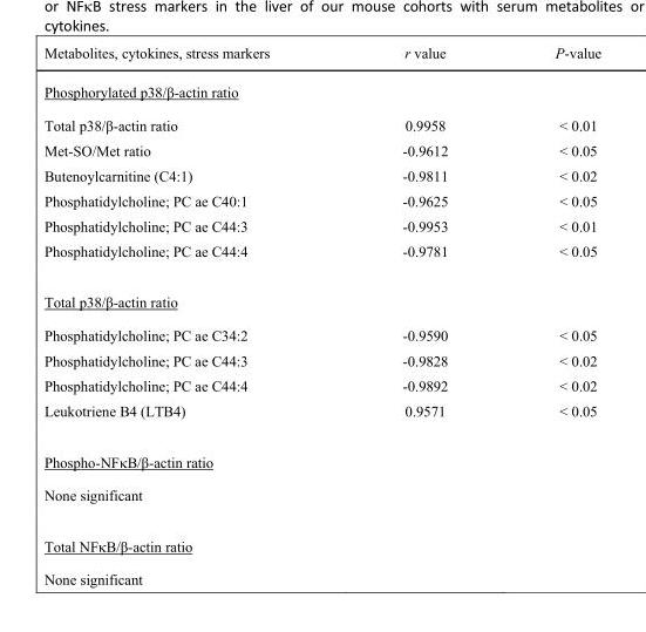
<table><thead><tr><td>Metabolites, cytokines, stress markers</td><td>r value</td><td>P-value</td></tr></thead><tbody><tr><td colspan="3">Phosphorylated p38/β-actin ratio</td></tr><tr><td>Total p38/β-actin ratio</td><td>0.9958</td><td>&lt; 0.01</td></tr><tr><td>Met-SO/Met ratio</td><td>-0.9612</td><td>&lt; 0.05</td></tr><tr><td>Butenoylcarnitine (C4:1)</td><td>-0.9811</td><td>&lt; 0.02</td></tr><tr><td>Phosphatidylcholine; PC ae C40:1</td><td>-0.9625</td><td>&lt; 0.05</td></tr><tr><td>Phosphatidylcholine; PC ae C44:3</td><td>-0.9953</td><td>&lt; 0.01</td></tr><tr><td>Phosphatidylcholine; PC ae C44:4</td><td>-0.9781</td><td>&lt; 0.05</td></tr><tr><td colspan="3">Total p38/β-actin ratio</td></tr><tr><td>Phosphatidylcholine; PC ae C34:2</td><td>-0.9590</td><td>&lt; 0.05</td></tr><tr><td>Phosphatidylcholine; PC ae C44:3</td><td>-0.9828</td><td>&lt; 0.02</td></tr><tr><td>Phosphatidylcholine; PC ae C44:4</td><td>-0.9892</td><td>&lt; 0.02</td></tr><tr><td>Leukotriene B4 (LTB4)</td><td>0.9571</td><td>&lt; 0.05</td></tr><tr><td colspan="3">Phospho-NFκB/β-actin ratio</td></tr><tr><td colspan="3">None significant</td></tr><tr><td colspan="3">Total NFκB/β-actin ratio</td></tr><tr><td>None significant</td><td></td><td></td></tr></tbody></table>